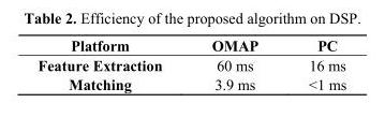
<table><thead><tr><td>Platform</td><td>OMAP</td><td>PC</td></tr></thead><tbody><tr><td>Feature Extraction</td><td>60 ms</td><td>16 ms</td></tr><tr><td>Matching</td><td>3.9 ms</td><td>&lt;1 ms</td></tr></tbody></table>